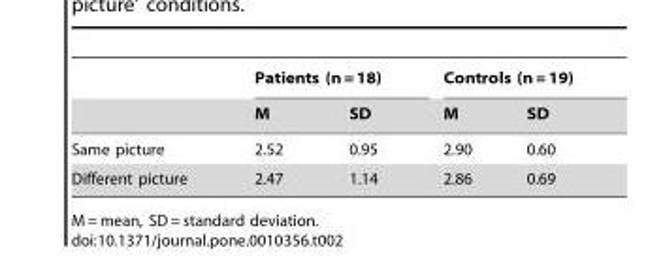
<table><thead><tr><td rowspan="2"></td><td colspan="2">Patients (n = 18)</td><td colspan="2">Controls (n = 19)</td></tr><tr><td>M</td><td>SD</td><td>M</td><td>SD</td></tr></thead><tbody><tr><td>Same picture</td><td>2.52</td><td>0.95</td><td>2.90</td><td>0.60</td></tr><tr><td>Different picture</td><td>2.47</td><td>1.14</td><td>2.86</td><td>0.69</td></tr></tbody></table>